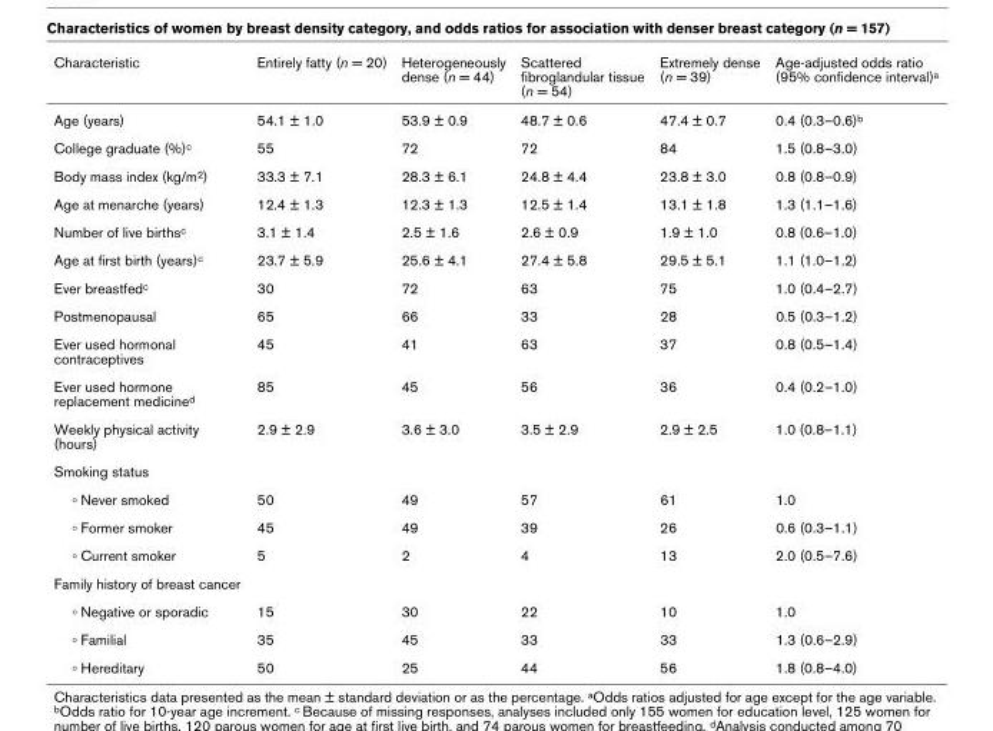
<table><thead><tr><td>Characteristic</td><td>Entirely fatty (n = 20)</td><td>Heterogeneously dense (n = 44)</td><td>Scattered fibroglandular tissue (n = 54)</td><td>Extremely dense (n = 39)</td><td>Age-adjusted odds ratio (95% confidence interval)<sup>a</sup></td></tr></thead><tbody><tr><td>Age (years)</td><td>54.1 ± 1.0</td><td>53.9 ± 0.9</td><td>48.7 ± 0.6</td><td>47.4 ± 0.7</td><td>0.4 (0.3–0.6)<sup>b</sup></td></tr><tr><td>College graduate (%)<sup>c</sup></td><td>55</td><td>72</td><td>72</td><td>84</td><td>1.5 (0.8–3.0)</td></tr><tr><td>Body mass index (kg/m<sup>2</sup>)</td><td>33.3 ± 7.1</td><td>28.3 ± 6.1</td><td>24.8 ± 4.4</td><td>23.8 ± 3.0</td><td>0.8 (0.8–0.9)</td></tr><tr><td>Age at menarche (years)</td><td>12.4 ± 1.3</td><td>12.3 ± 1.3</td><td>12.5 ± 1.4</td><td>13.1 ± 1.8</td><td>1.3 (1.1–1.6)</td></tr><tr><td>Number of live births<sup>c</sup></td><td>3.1 ± 1.4</td><td>2.5 ± 1.6</td><td>2.6 ± 0.9</td><td>1.9 ± 1.0</td><td>0.8 (0.6–1.0)</td></tr><tr><td>Age at first birth (years)<sup>c</sup></td><td>23.7 ± 5.9</td><td>25.6 ± 4.1</td><td>27.4 ± 5.8</td><td>29.5 ± 5.1</td><td>1.1 (1.0–1.2)</td></tr><tr><td>Ever breastfed<sup>c</sup></td><td>30</td><td>72</td><td>63</td><td>75</td><td>1.0 (0.4–2.7)</td></tr><tr><td>Postmenopausal</td><td>65</td><td>66</td><td>33</td><td>28</td><td>0.5 (0.3–1.2)</td></tr><tr><td>Ever used hormonal contraceptives</td><td>45</td><td>41</td><td>63</td><td>37</td><td>0.8 (0.5–1.4)</td></tr><tr><td>Ever used hormone replacement medicine<sup>d</sup></td><td>85</td><td>45</td><td>56</td><td>36</td><td>0.4 (0.2–1.0)</td></tr><tr><td>Weekly physical activity (hours)</td><td>2.9 ± 2.9</td><td>3.6 ± 3.0</td><td>3.5 ± 2.9</td><td>2.9 ± 2.5</td><td>1.0 (0.8–1.1)</td></tr><tr><td colspan="6">Smoking status</td></tr><tr><td>∘ Never smoked</td><td>50</td><td>49</td><td>57</td><td>61</td><td>1.0</td></tr><tr><td>∘ Former smoker</td><td>45</td><td>49</td><td>39</td><td>26</td><td>0.6 (0.3–1.1)</td></tr><tr><td>∘ Current smoker</td><td>5</td><td>2</td><td>4</td><td>13</td><td>2.0 (0.5–7.6)</td></tr><tr><td colspan="6">Family history of breast cancer</td></tr><tr><td>∘ Negative or sporadic</td><td>15</td><td>30</td><td>22</td><td>10</td><td>1.0</td></tr><tr><td>∘ Familial</td><td>35</td><td>45</td><td>33</td><td>33</td><td>1.3 (0.6–2.9)</td></tr><tr><td>∘ Hereditary</td><td>50</td><td>25</td><td>44</td><td>56</td><td>1.8 (0.8–4.0)</td></tr></tbody></table>